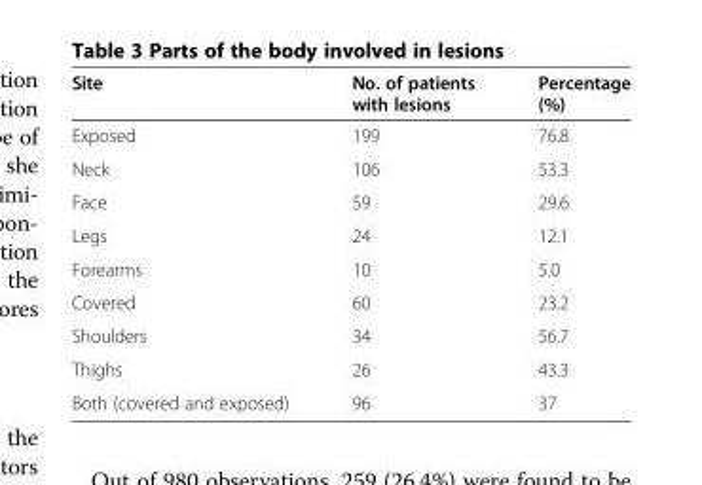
<table><thead><tr><td>Site</td><td>No. of patients with lesions</td><td>Percentage (%)</td></tr></thead><tbody><tr><td>Exposed</td><td>199</td><td>76.8</td></tr><tr><td>Neck</td><td>106</td><td>53.3</td></tr><tr><td>Face</td><td>59</td><td>29.6</td></tr><tr><td>Legs</td><td>24</td><td>12.1</td></tr><tr><td>Forearms</td><td>10</td><td>5.0</td></tr><tr><td>Covered</td><td>60</td><td>23.2</td></tr><tr><td>Shoulders</td><td>34</td><td>56.7</td></tr><tr><td>Thighs</td><td>26</td><td>43.3</td></tr><tr><td>Both (covered and exposed)</td><td>96</td><td>37</td></tr></tbody></table>